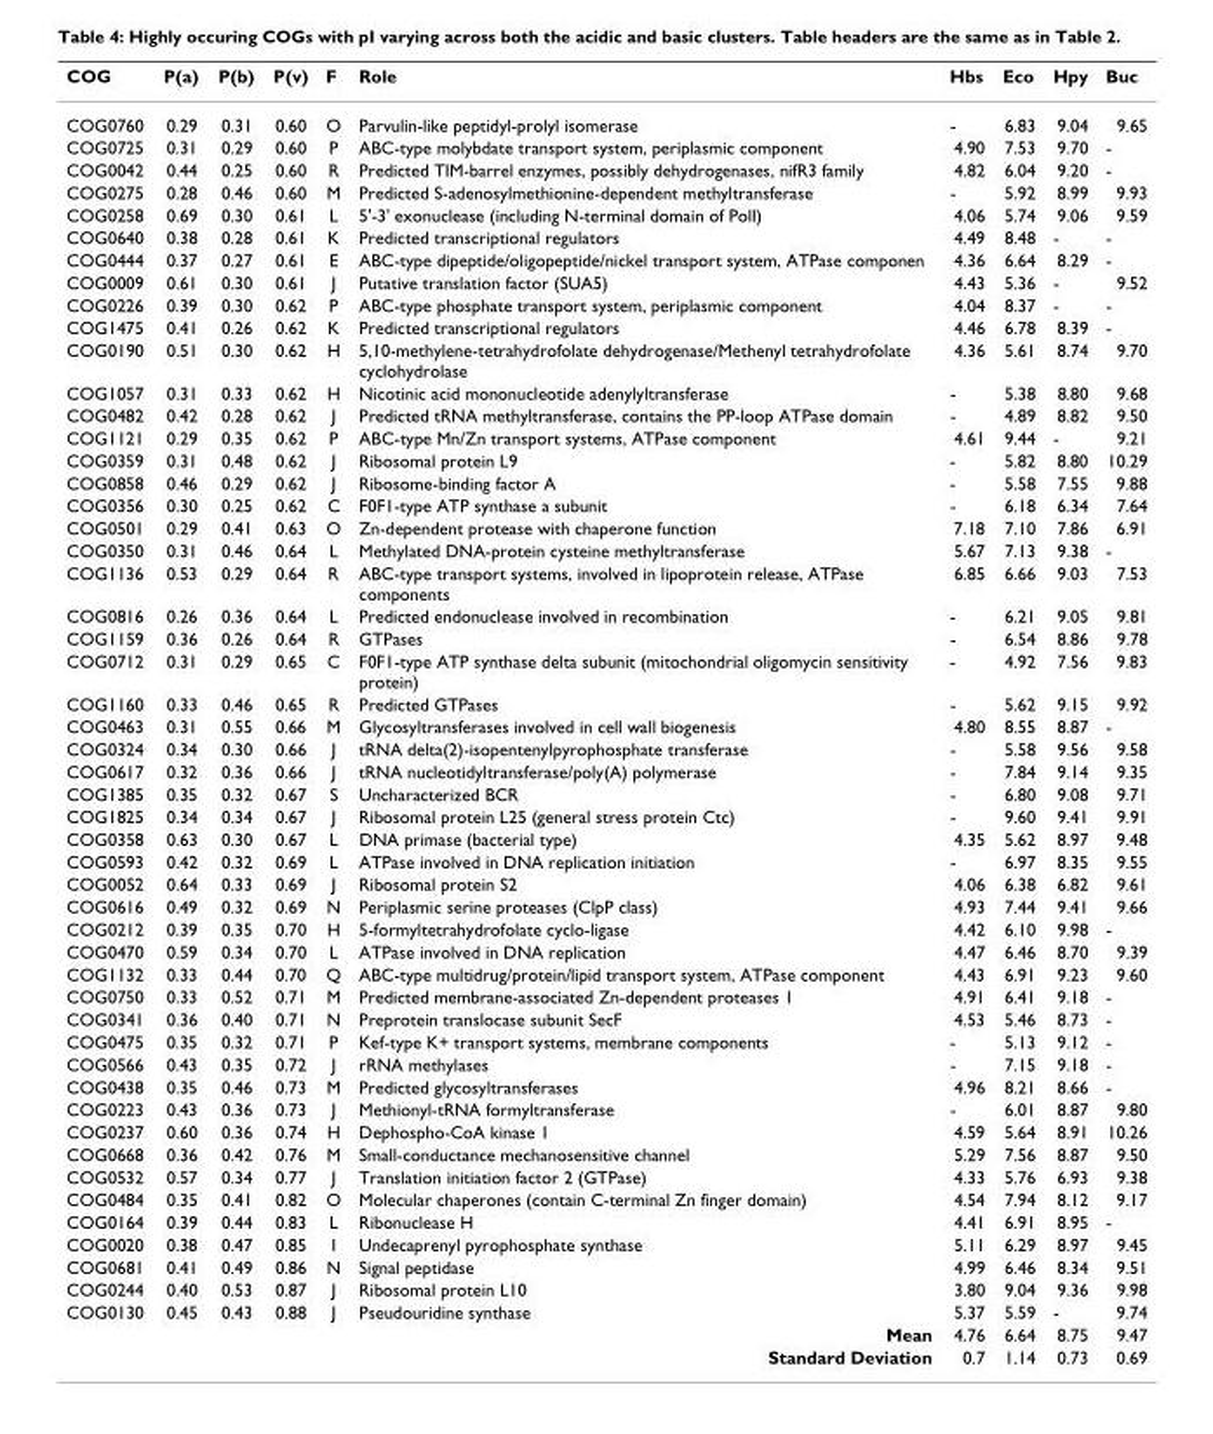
<table><thead><tr><td>COG</td><td>P(a)</td><td>P(b)</td><td>P(v)</td><td>F</td><td>Role</td><td>Hbs</td><td>Eco</td><td>Hpy</td><td>Buc</td></tr></thead><tbody><tr><td>COG0760</td><td>0.29</td><td>0.31</td><td>0.60</td><td>O</td><td>Parvulin-like peptidyl-prolyl isomerase</td><td>-</td><td>6.83</td><td>9.04</td><td>9.65</td></tr><tr><td>COG0725</td><td>0.31</td><td>0.29</td><td>0.60</td><td>P</td><td>ABC-type molybdate transport system, periplasmic component</td><td>4.90</td><td>7.53</td><td>9.70</td><td>-</td></tr><tr><td>COG0042</td><td>0.44</td><td>0.25</td><td>0.60</td><td>R</td><td>Predicted TIM-barrel enzymes, possibly dehydrogenases, nifR3 family</td><td>4.82</td><td>6.04</td><td>9.20</td><td>-</td></tr><tr><td>COG0275</td><td>0.28</td><td>0.46</td><td>0.60</td><td>M</td><td>Predicted S-adenosylmethionine-dependent methyltransferase</td><td>-</td><td>5.92</td><td>8.99</td><td>9.93</td></tr><tr><td>COG0258</td><td>0.69</td><td>0.30</td><td>0.61</td><td>L</td><td>5&#x27;-3&#x27; exonuclease (including N-terminal domain of PolI)</td><td>4.06</td><td>5.74</td><td>9.06</td><td>9.59</td></tr><tr><td>COG0640</td><td>0.38</td><td>0.28</td><td>0.61</td><td>K</td><td>Predicted transcriptional regulators</td><td>4.49</td><td>8.48</td><td>-</td><td>-</td></tr><tr><td>COG0444</td><td>0.37</td><td>0.27</td><td>0.61</td><td>E</td><td>ABC-type dipeptide/oligopeptide/nickel transport system, ATPase componen</td><td>4.36</td><td>6.64</td><td>8.29</td><td>-</td></tr><tr><td>COG0009</td><td>0.61</td><td>0.30</td><td>0.61</td><td>J</td><td>Putative translation factor (SUA5)</td><td>4.43</td><td>5.36</td><td>-</td><td>9.52</td></tr><tr><td>COG0226</td><td>0.39</td><td>0.30</td><td>0.62</td><td>P</td><td>ABC-type phosphate transport system, periplasmic component</td><td>4.04</td><td>8.37</td><td>-</td><td>-</td></tr><tr><td>COG1475</td><td>0.41</td><td>0.26</td><td>0.62</td><td>K</td><td>Predicted transcriptional regulators</td><td>4.46</td><td>6.78</td><td>8.39</td><td>-</td></tr><tr><td>COG0190</td><td>0.51</td><td>0.30</td><td>0.62</td><td>H</td><td>5,10-methylene-tetrahydrofolate dehydrogenase/Methenyl tetrahydrofolate cyclohydrolase</td><td>4.36</td><td>5.61</td><td>8.74</td><td>9.70</td></tr><tr><td>COG1057</td><td>0.31</td><td>0.33</td><td>0.62</td><td>H</td><td>Nicotinic acid mononucleotide adenylyltransferase</td><td>-</td><td>5.38</td><td>8.80</td><td>9.68</td></tr><tr><td>COG0482</td><td>0.42</td><td>0.28</td><td>0.62</td><td>J</td><td>Predicted tRNA methyltransferase, contains the PP-loop ATPase domain</td><td>-</td><td>4.89</td><td>8.82</td><td>9.50</td></tr><tr><td>COG1121</td><td>0.29</td><td>0.35</td><td>0.62</td><td>P</td><td>ABC-type Mn/Zn transport systems, ATPase component</td><td>4.61</td><td>9.44</td><td>-</td><td>9.21</td></tr><tr><td>COG0359</td><td>0.31</td><td>0.48</td><td>0.62</td><td>J</td><td>Ribosomal protein L9</td><td>-</td><td>5.82</td><td>8.80</td><td>10.29</td></tr><tr><td>COG0858</td><td>0.46</td><td>0.29</td><td>0.62</td><td>J</td><td>Ribosome-binding factor A</td><td>-</td><td>5.58</td><td>7.55</td><td>9.88</td></tr><tr><td>COG0356</td><td>0.30</td><td>0.25</td><td>0.62</td><td>C</td><td>F0F1-type ATP synthase a subunit</td><td>-</td><td>6.18</td><td>6.34</td><td>7.64</td></tr><tr><td>COG0501</td><td>0.29</td><td>0.41</td><td>0.63</td><td>O</td><td>Zn-dependent protease with chaperone function</td><td>7.18</td><td>7.10</td><td>7.86</td><td>6.91</td></tr><tr><td>COG0350</td><td>0.31</td><td>0.46</td><td>0.64</td><td>L</td><td>Methylated DNA-protein cysteine methyltransferase</td><td>5.67</td><td>7.13</td><td>9.38</td><td>-</td></tr><tr><td>COG1136</td><td>0.53</td><td>0.29</td><td>0.64</td><td>R</td><td>ABC-type transport systems, involved in lipoprotein release, ATPase components</td><td>6.85</td><td>6.66</td><td>9.03</td><td>7.53</td></tr><tr><td>COG0816</td><td>0.26</td><td>0.36</td><td>0.64</td><td>L</td><td>Predicted endonuclease involved in recombination</td><td>-</td><td>6.21</td><td>9.05</td><td>9.81</td></tr><tr><td>COG1159</td><td>0.36</td><td>0.26</td><td>0.64</td><td>R</td><td>GTPases</td><td>-</td><td>6.54</td><td>8.86</td><td>9.78</td></tr><tr><td>COG0712</td><td>0.31</td><td>0.29</td><td>0.65</td><td>C</td><td>F0F1-type ATP synthase delta subunit (mitochondrial oligomycin sensitivity protein)</td><td>-</td><td>4.92</td><td>7.56</td><td>9.83</td></tr><tr><td>COG1160</td><td>0.33</td><td>0.46</td><td>0.65</td><td>R</td><td>Predicted GTPases</td><td>-</td><td>5.62</td><td>9.15</td><td>9.92</td></tr><tr><td>COG0463</td><td>0.31</td><td>0.55</td><td>0.66</td><td>M</td><td>Glycosyltransferases involved in cell wall biogenesis</td><td>4.80</td><td>8.55</td><td>8.87</td><td>-</td></tr><tr><td>COG0324</td><td>0.34</td><td>0.30</td><td>0.66</td><td>J</td><td>tRNA delta(2)-isopentenylpyrophosphate transferase</td><td>-</td><td>5.58</td><td>9.56</td><td>9.58</td></tr><tr><td>COG0617</td><td>0.32</td><td>0.36</td><td>0.66</td><td>J</td><td>tRNA nucleotidyltransferase/poly(A) polymerase</td><td>-</td><td>7.84</td><td>9.14</td><td>9.35</td></tr><tr><td>COG1385</td><td>0.35</td><td>0.32</td><td>0.67</td><td>S</td><td>Uncharacterized BCR</td><td>-</td><td>6.80</td><td>9.08</td><td>9.71</td></tr><tr><td>COG1825</td><td>0.34</td><td>0.34</td><td>0.67</td><td>J</td><td>Ribosomal protein L25 (general stress protein Ctc)</td><td>-</td><td>9.60</td><td>9.41</td><td>9.91</td></tr><tr><td>COG0358</td><td>0.63</td><td>0.30</td><td>0.67</td><td>L</td><td>DNA primase (bacterial type)</td><td>4.35</td><td>5.62</td><td>8.97</td><td>9.48</td></tr><tr><td>COG0593</td><td>0.42</td><td>0.32</td><td>0.69</td><td>L</td><td>ATPase involved in DNA replication initiation</td><td>-</td><td>6.97</td><td>8.35</td><td>9.55</td></tr><tr><td>COG0052</td><td>0.64</td><td>0.33</td><td>0.69</td><td>J</td><td>Ribosomal protein S2</td><td>4.06</td><td>6.38</td><td>6.82</td><td>9.61</td></tr><tr><td>COG0616</td><td>0.49</td><td>0.32</td><td>0.69</td><td>N</td><td>Periplasmic serine proteases (ClpP class)</td><td>4.93</td><td>7.44</td><td>9.41</td><td>9.66</td></tr><tr><td>COG0212</td><td>0.39</td><td>0.35</td><td>0.70</td><td>H</td><td>5-formyltetrahydrofolate cyclo-ligase</td><td>4.42</td><td>6.10</td><td>9.98</td><td>-</td></tr><tr><td>COG0470</td><td>0.59</td><td>0.34</td><td>0.70</td><td>L</td><td>ATPase involved in DNA replication</td><td>4.47</td><td>6.46</td><td>8.70</td><td>9.39</td></tr><tr><td>COG1132</td><td>0.33</td><td>0.44</td><td>0.70</td><td>Q</td><td>ABC-type multidrug/protein/lipid transport system, ATPase component</td><td>4.43</td><td>6.91</td><td>9.23</td><td>9.60</td></tr><tr><td>COG0750</td><td>0.33</td><td>0.52</td><td>0.71</td><td>M</td><td>Predicted membrane-associated Zn-dependent proteases 1</td><td>4.91</td><td>6.41</td><td>9.18</td><td>-</td></tr><tr><td>COG0341</td><td>0.36</td><td>0.40</td><td>0.71</td><td>N</td><td>Preprotein translocase subunit SecF</td><td>4.53</td><td>5.46</td><td>8.73</td><td>-</td></tr><tr><td>COG0475</td><td>0.35</td><td>0.32</td><td>0.71</td><td>P</td><td>Kef-type K+ transport systems, membrane components</td><td>-</td><td>5.13</td><td>9.12</td><td>-</td></tr><tr><td>COG0566</td><td>0.43</td><td>0.35</td><td>0.72</td><td>J</td><td>rRNA methylases</td><td>-</td><td>7.15</td><td>9.18</td><td>-</td></tr><tr><td>COG0438</td><td>0.35</td><td>0.46</td><td>0.73</td><td>M</td><td>Predicted glycosyltransferases</td><td>4.96</td><td>8.21</td><td>8.66</td><td>-</td></tr><tr><td>COG0223</td><td>0.43</td><td>0.36</td><td>0.73</td><td>J</td><td>Methionyl-tRNA formyltransferase</td><td>-</td><td>6.01</td><td>8.87</td><td>9.80</td></tr><tr><td>COG0237</td><td>0.60</td><td>0.36</td><td>0.74</td><td>H</td><td>Dephospho-CoA kinase 1</td><td>4.59</td><td>5.64</td><td>8.91</td><td>10.26</td></tr><tr><td>COG0668</td><td>0.36</td><td>0.42</td><td>0.76</td><td>M</td><td>Small-conductance mechanosensitive channel</td><td>5.29</td><td>7.56</td><td>8.87</td><td>9.50</td></tr><tr><td>COG0532</td><td>0.57</td><td>0.34</td><td>0.77</td><td>J</td><td>Translation initiation factor 2 (GTPase)</td><td>4.33</td><td>5.76</td><td>6.93</td><td>9.38</td></tr><tr><td>COG0484</td><td>0.35</td><td>0.41</td><td>0.82</td><td>O</td><td>Molecular chaperones (contain C-terminal Zn finger domain)</td><td>4.54</td><td>7.94</td><td>8.12</td><td>9.17</td></tr><tr><td>COG0164</td><td>0.39</td><td>0.44</td><td>0.83</td><td>L</td><td>Ribonuclease H</td><td>4.41</td><td>6.91</td><td>8.95</td><td>-</td></tr><tr><td>COG0020</td><td>0.38</td><td>0.47</td><td>0.85</td><td>I</td><td>Undecaprenyl pyrophosphate synthase</td><td>5.11</td><td>6.29</td><td>8.97</td><td>9.45</td></tr><tr><td>COG0681</td><td>0.41</td><td>0.49</td><td>0.86</td><td>N</td><td>Signal peptidase</td><td>4.99</td><td>6.46</td><td>8.34</td><td>9.51</td></tr><tr><td>COG0244</td><td>0.40</td><td>0.53</td><td>0.87</td><td>J</td><td>Ribosomal protein L10</td><td>3.80</td><td>9.04</td><td>9.36</td><td>9.98</td></tr><tr><td rowspan="3">COG0130</td><td>0.45</td><td>0.43</td><td>0.88</td><td>J</td><td>Pseudouridine synthase</td><td>5.37</td><td>5.59</td><td>-</td><td>9.74</td></tr><tr><td></td><td></td><td></td><td></td><td>Mean</td><td>4.76</td><td>6.64</td><td>8.75</td><td>9.47</td></tr><tr><td></td><td></td><td></td><td></td><td>Standard Deviation</td><td>0.7</td><td>1.14</td><td>0.73</td><td>0.69</td></tr></tbody></table>